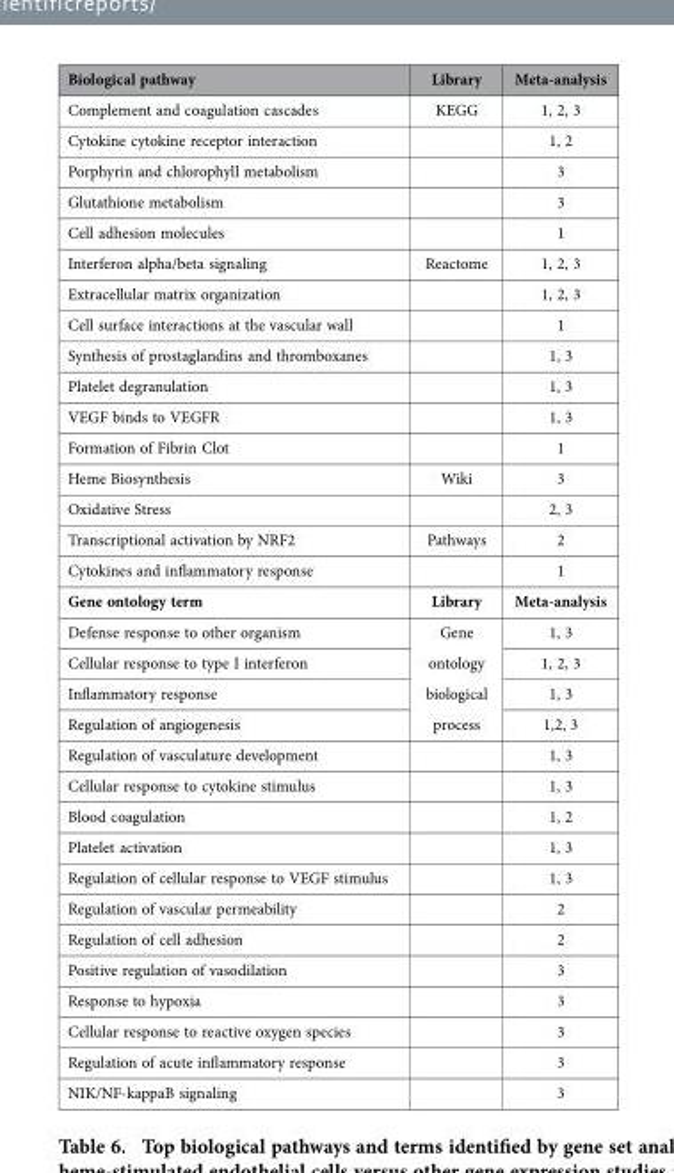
<table><thead><tr><td>Biological pathway</td><td>Library</td><td>Meta-analysis</td></tr></thead><tbody><tr><td>Complement and coagulation cascades</td><td>KEGG</td><td>1, 2, 3</td></tr><tr><td>Cytokine cytokine receptor interaction</td><td></td><td>1, 2</td></tr><tr><td>Porphyrin and chlorophyll metabolism</td><td></td><td>3</td></tr><tr><td>Glutathione metabolism</td><td></td><td>3</td></tr><tr><td>Cell adhesion molecules</td><td></td><td>1</td></tr><tr><td>Interferon alpha/beta signaling</td><td>Reactome</td><td>1, 2, 3</td></tr><tr><td>Extracellular matrix organization</td><td></td><td>1, 2, 3</td></tr><tr><td>Cell surface interactions at the vascular wall</td><td></td><td>1</td></tr><tr><td>Synthesis of prostaglandins and thromboxanes</td><td></td><td>1, 3</td></tr><tr><td>Platelet degranulation</td><td></td><td>1, 3</td></tr><tr><td>VEGF binds to VEGFR</td><td></td><td>1, 3</td></tr><tr><td>Formation of Fibrin Clot</td><td></td><td>1</td></tr><tr><td>Heme Biosynthesis</td><td>Wiki</td><td>3</td></tr><tr><td>Oxidative Stress</td><td></td><td>2, 3</td></tr><tr><td>Transcriptional activation by NRF2</td><td>Pathways</td><td>2</td></tr><tr><td>Cytokines and inflammatory response</td><td></td><td>1</td></tr><tr><td>Gene ontology term</td><td>Library</td><td>Meta-analysis</td></tr><tr><td>Defense response to other organism</td><td rowspan="4">Gene ontology biological process</td><td>1, 3</td></tr><tr><td>Cellular response to type I interferon</td><td>1, 2, 3</td></tr><tr><td>Inflammatory response</td><td>1, 3</td></tr><tr><td>Regulation of angiogenesis</td><td>1,2, 3</td></tr><tr><td>Regulation of vasculature development</td><td></td><td>1, 3</td></tr><tr><td>Cellular response to cytokine stimulus</td><td></td><td>1, 3</td></tr><tr><td>Blood coagulation</td><td></td><td>1, 2</td></tr><tr><td>Platelet activation</td><td></td><td>1, 3</td></tr><tr><td>Regulation of cellular response to VEGF stimulus</td><td></td><td>1, 3</td></tr><tr><td>Regulation of vascular permeability</td><td></td><td>2</td></tr><tr><td>Regulation of cell adhesion</td><td></td><td>2</td></tr><tr><td>Positive regulation of vasodilation</td><td></td><td>3</td></tr><tr><td>Response to hypoxia</td><td></td><td>3</td></tr><tr><td>Cellular response to reactive oxygen species</td><td></td><td>3</td></tr><tr><td>Regulation of acute inflammatory response</td><td></td><td>3</td></tr><tr><td>NIK/NF-kappaB signaling</td><td></td><td>3</td></tr></tbody></table>